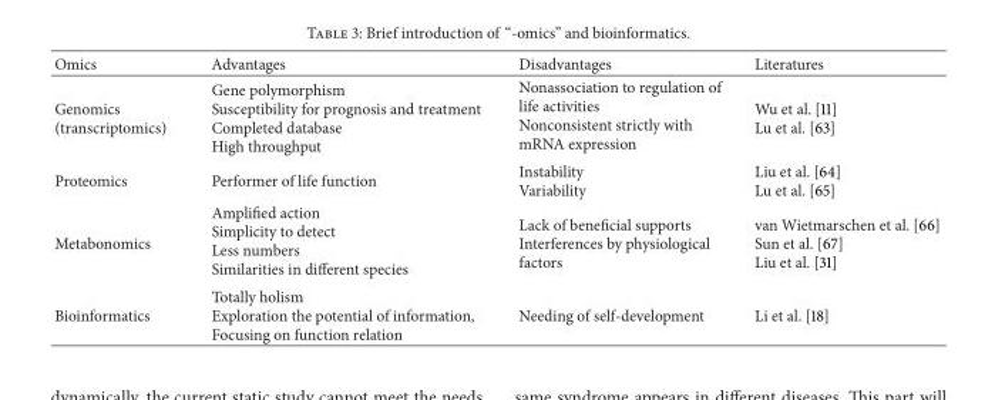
<table><thead><tr><td>Omics</td><td>Advantages</td><td>Disadvantages</td><td>Literatures</td></tr></thead><tbody><tr><td>Genomics (transcriptomics)</td><td>Gene polymorphism Susceptibility for prognosis and treatment Completed database High throughput</td><td>Nonassociation to regulation of life activities Nonconsistent strictly with mRNA expression</td><td>Wu et al. [11] Lu et al. [63]</td></tr><tr><td>Proteomics</td><td>Performer of life function</td><td>Instability Variability</td><td>Liu et al. [64] Lu et al. [65]</td></tr><tr><td>Metabonomics</td><td>Amplified action Simplicity to detect Less numbers Similarities in different species</td><td>Lack of beneficial supports Interferences by physiological factors</td><td>van Wietmarschen et al. [66] Sun et al. [67] Liu et al. [31]</td></tr><tr><td>Bioinformatics</td><td>Totally holism Exploration the potential of information, Focusing on function relation</td><td>Needing of self-development</td><td>Li et al. [18]</td></tr></tbody></table>